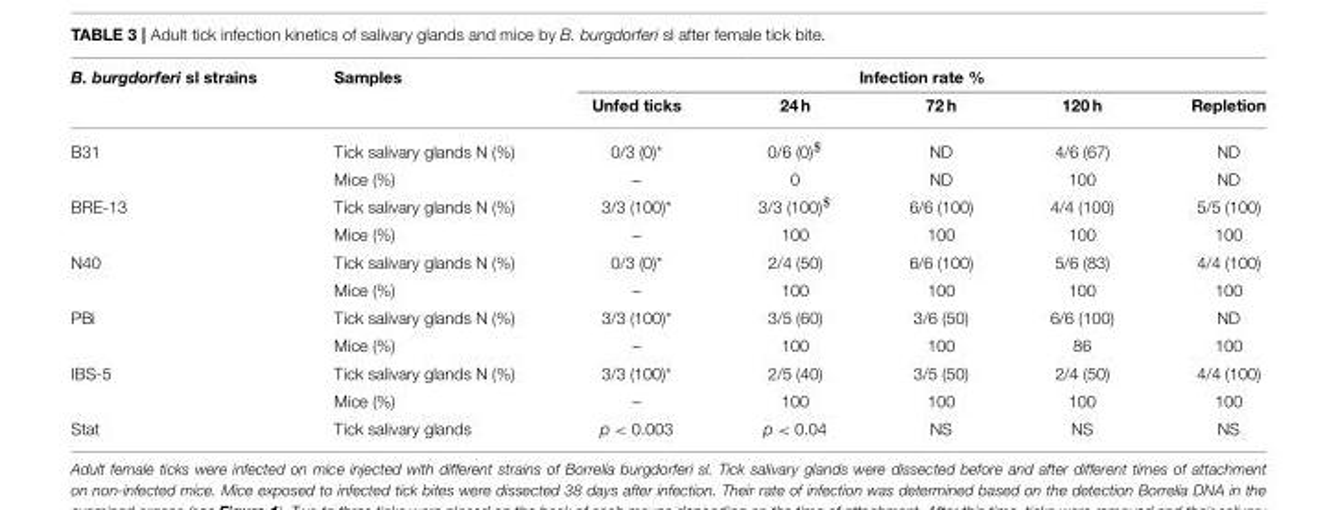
<table><thead><tr><td rowspan="2">B. burgdorferi sl strains</td><td rowspan="2">Samples</td><td colspan="5">Infection rate %</td></tr><tr><td>Unfed ticks</td><td>24 h</td><td>72 h</td><td>120 h</td><td>Repletion</td></tr></thead><tbody><tr><td rowspan="2">B31</td><td>Tick salivary glands N (%)</td><td>0/3 (0)*</td><td>0/6 (0)<sup>$</sup></td><td>ND</td><td>4/6 (67)</td><td>ND</td></tr><tr><td>Mice (%)</td><td>–</td><td>0</td><td>ND</td><td>100</td><td>ND</td></tr><tr><td rowspan="2">BRE-13</td><td>Tick salivary glands N (%)</td><td>3/3 (100)*</td><td>3/3 (100)<sup>$</sup></td><td>6/6 (100)</td><td>4/4 (100)</td><td>5/5 (100)</td></tr><tr><td>Mice (%)</td><td>–</td><td>100</td><td>100</td><td>100</td><td>100</td></tr><tr><td rowspan="2">N40</td><td>Tick salivary glands N (%)</td><td>0/3 (0)*</td><td>2/4 (50)</td><td>6/6 (100)</td><td>5/6 (83)</td><td>4/4 (100)</td></tr><tr><td>Mice (%)</td><td>–</td><td>100</td><td>100</td><td>100</td><td>100</td></tr><tr><td rowspan="2">PBi</td><td>Tick salivary glands N (%)</td><td>3/3 (100)*</td><td>3/5 (60)</td><td>3/6 (50)</td><td>6/6 (100)</td><td>ND</td></tr><tr><td>Mice (%)</td><td>–</td><td>100</td><td>100</td><td>86</td><td>100</td></tr><tr><td rowspan="2">IBS-5</td><td>Tick salivary glands N (%)</td><td>3/3 (100)*</td><td>2/5 (40)</td><td>3/5 (50)</td><td>2/4 (50)</td><td>4/4 (100)</td></tr><tr><td>Mice (%)</td><td>–</td><td>100</td><td>100</td><td>100</td><td>100</td></tr><tr><td>Stat</td><td>Tick salivary glands</td><td>p &lt; 0.003</td><td>p &lt; 0.04</td><td>NS</td><td>NS</td><td>NS</td></tr></tbody></table>